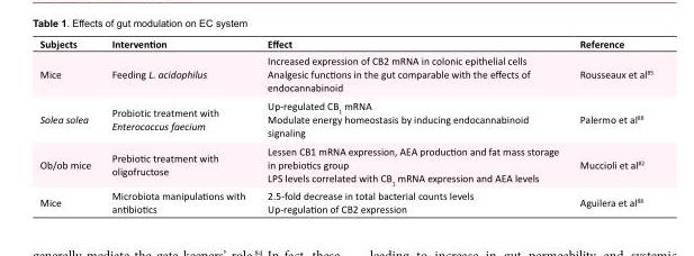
<table><tbody><tr><td>Subjects</td><td>Intervention</td><td>Effect</td><td>Reference</td></tr><tr><td>Mice</td><td>Feeding L. acidophilus</td><td>Increased expression of CB2 mRNA in colonic epithelial cells Analgesic functions in the gut comparable with the effects of endocannabinoid</td><td>Rousseaux et al<sup>85</sup></td></tr><tr><td>Solea solea</td><td>Probiotic treatment with Enterococcus faecium</td><td>Up-regulated CB<sub>1</sub> mRNA Modulate energy homeostasis by inducing endocannabinoid signaling</td><td>Palermo et al<sup>88</sup></td></tr><tr><td>Ob/ob mice</td><td>Prebiotic treatment with oligofructose</td><td>Lessen CB1 mRNA expression, AEA production and fat mass storage in prebiotics group LPS levels correlated with CB<sub>1</sub> mRNA expression and AEA levels</td><td>Muccioli et al<sup>82</sup></td></tr><tr><td>Mice</td><td>Microbiota manipulations with antibiotics</td><td>2.5-fold decrease in total bacterial counts levels Up-regulation of CB2 expression</td><td>Aguilera et al<sup>88</sup></td></tr></tbody></table>